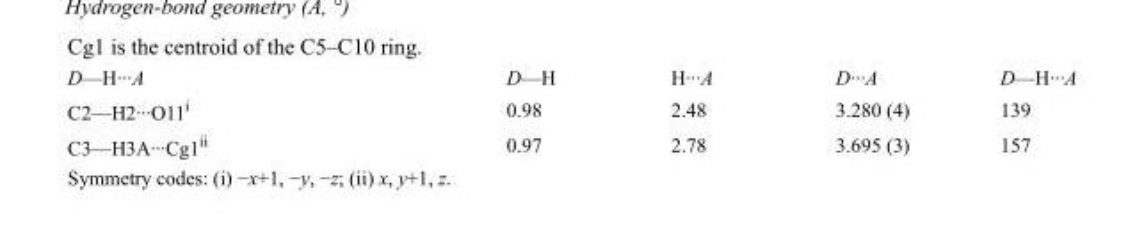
<table><tbody><tr><td>D—H···A</td><td>D—H</td><td>H···A</td><td>D···A</td><td>D—H···A</td></tr><tr><td>C2—H2···O11<sup>i</sup></td><td>0.98</td><td>2.48</td><td>3.280 (4)</td><td>139</td></tr><tr><td>C3—H3A···Cg1<sup>ii</sup></td><td>0.97</td><td>2.78</td><td>3.695 (3)</td><td>157</td></tr></tbody></table>